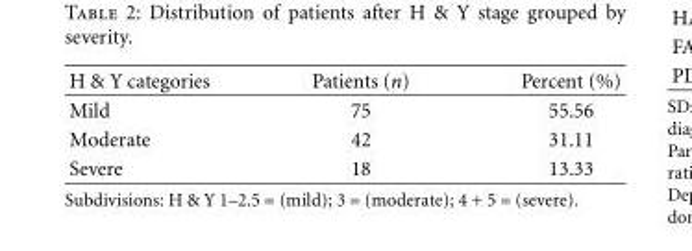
<table><thead><tr><td>H &amp; Y categories</td><td>Patients (n)</td><td>Percent (%)</td></tr></thead><tbody><tr><td>Mild</td><td>75</td><td>55.56</td></tr><tr><td>Moderate</td><td>42</td><td>31.11</td></tr><tr><td>Severe</td><td>18</td><td>13.33</td></tr></tbody></table>